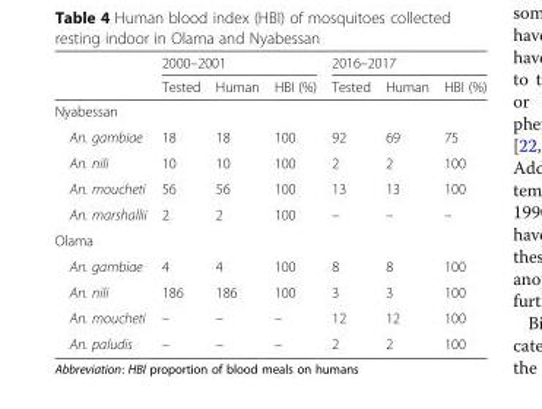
<table><thead><tr><td rowspan="2"></td><td colspan="3">2000–2001</td><td colspan="3">2016–2017</td></tr><tr><td>Tested</td><td>Human</td><td>HBI (%)</td><td>Tested</td><td>Human</td><td>HBI (%)</td></tr></thead><tbody><tr><td colspan="7">Nyabessan</td></tr><tr><td>An. gambiae</td><td>18</td><td>18</td><td>100</td><td>92</td><td>69</td><td>75</td></tr><tr><td>An. nili</td><td>10</td><td>10</td><td>100</td><td>2</td><td>2</td><td>100</td></tr><tr><td>An. moucheti</td><td>56</td><td>56</td><td>100</td><td>13</td><td>13</td><td>100</td></tr><tr><td>An. marshallii</td><td>2</td><td>2</td><td>100</td><td>–</td><td>–</td><td>–</td></tr><tr><td colspan="7">Olama</td></tr><tr><td>An. gambiae</td><td>4</td><td>4</td><td>100</td><td>8</td><td>8</td><td>100</td></tr><tr><td>An. nili</td><td>186</td><td>186</td><td>100</td><td>3</td><td>3</td><td>100</td></tr><tr><td>An. moucheti</td><td>–</td><td>–</td><td>–</td><td>12</td><td>12</td><td>100</td></tr><tr><td>An. paludis</td><td>–</td><td>–</td><td>–</td><td>2</td><td>2</td><td>100</td></tr></tbody></table>